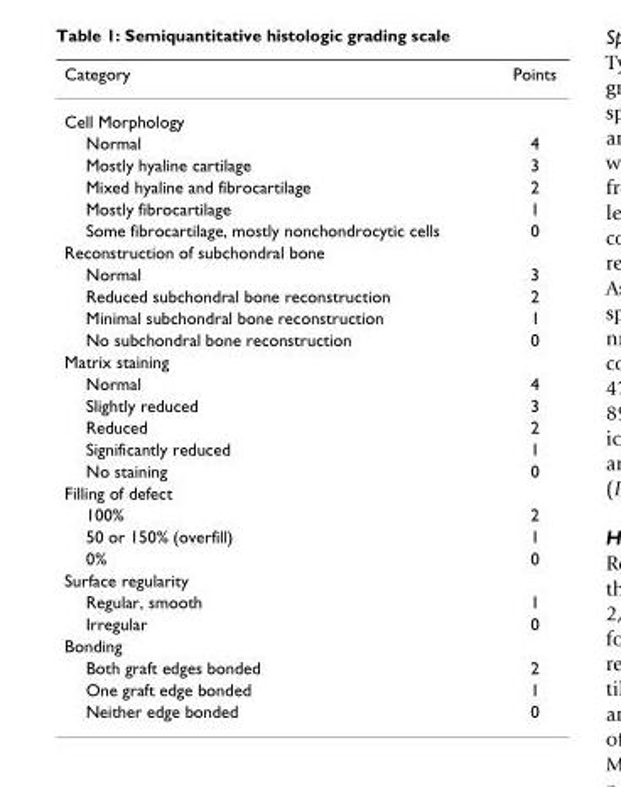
<table><thead><tr><td>Category</td><td>Points</td></tr></thead><tbody><tr><td colspan="2">Cell Morphology</td></tr><tr><td>Normal</td><td>4</td></tr><tr><td>Mostly hyaline cartilage</td><td>3</td></tr><tr><td>Mixed hyaline and fibrocartilage</td><td>2</td></tr><tr><td>Mostly fibrocartilage</td><td>1</td></tr><tr><td>Some fibrocartilage, mostly nonchondrocytic cells</td><td>0</td></tr><tr><td colspan="2">Reconstruction of subchondral bone</td></tr><tr><td>Normal</td><td>3</td></tr><tr><td>Reduced subchondral bone reconstruction</td><td>2</td></tr><tr><td>Minimal subchondral bone reconstruction</td><td>1</td></tr><tr><td>No subchondral bone reconstruction</td><td>0</td></tr><tr><td colspan="2">Matrix staining</td></tr><tr><td>Normal</td><td>4</td></tr><tr><td>Slightly reduced</td><td>3</td></tr><tr><td>Reduced</td><td>2</td></tr><tr><td>Significantly reduced</td><td>1</td></tr><tr><td>No staining</td><td>0</td></tr><tr><td colspan="2">Filling of defect</td></tr><tr><td>100%</td><td>2</td></tr><tr><td>50 or 150% (overfill)</td><td>1</td></tr><tr><td>0%</td><td>0</td></tr><tr><td colspan="2">Surface regularity</td></tr><tr><td>Regular, smooth</td><td>1</td></tr><tr><td>Irregular</td><td>0</td></tr><tr><td colspan="2">Bonding</td></tr><tr><td>Both graft edges bonded</td><td>2</td></tr><tr><td>One graft edge bonded</td><td>1</td></tr><tr><td>Neither edge bonded</td><td>0</td></tr></tbody></table>